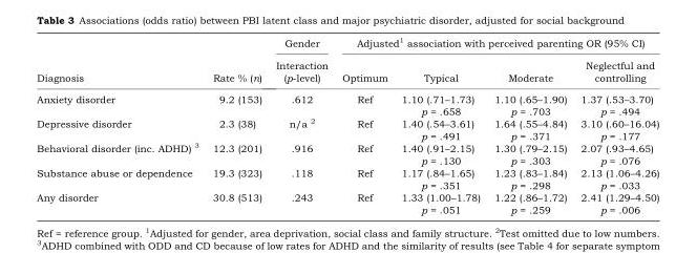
<table><thead><tr><td rowspan="2">Diagnosis</td><td rowspan="2">Rate % (n)</td><td rowspan="2">Gender Interaction (p-level)</td><td colspan="4">Adjusted<sup>1</sup> association with perceived parenting OR (95% CI)</td></tr><tr><td>Optimum</td><td>Typical</td><td>Moderate</td><td>Neglectful and controlling</td></tr></thead><tbody><tr><td>Anxiety disorder</td><td>9.2 (153)</td><td>.612</td><td>Ref</td><td>1.10 (.71–1.73) p = .658</td><td>1.10 (.65–1.90) p = .703</td><td>1.37 (.53–3.70) p = .494</td></tr><tr><td>Depressive disorder</td><td>2.3 (38)</td><td>n/a 2</td><td>Ref</td><td>1.40 (.54–3.61) p = .491</td><td>1.64 (.55–4.84) p = .371</td><td>3.10 (.60–16.04) p = .177</td></tr><tr><td>Behavioral disorder (inc. ADHD) 3</td><td>12.3 (201)</td><td>.916</td><td>Ref</td><td>1.40 (.91–2.15) p = .130</td><td>1.30 (.79–2.15) p = .303</td><td>2.07 (.93–4.65) p = .076</td></tr><tr><td>Substance abuse or dependence</td><td>19.3 (323)</td><td>.118</td><td>Ref</td><td>1.17 (.84–1.65) p = .351</td><td>1.23 (.83–1.84) p = .298</td><td>2.13 (1.06–4.26) p = .033</td></tr><tr><td>Any disorder</td><td>30.8 (513)</td><td>.243</td><td>Ref</td><td>1.33 (1.00–1.78) p = .051</td><td>1.22 (.86–1.72) p = .259</td><td>2.41 (1.29–4.50) p = .006</td></tr></tbody></table>